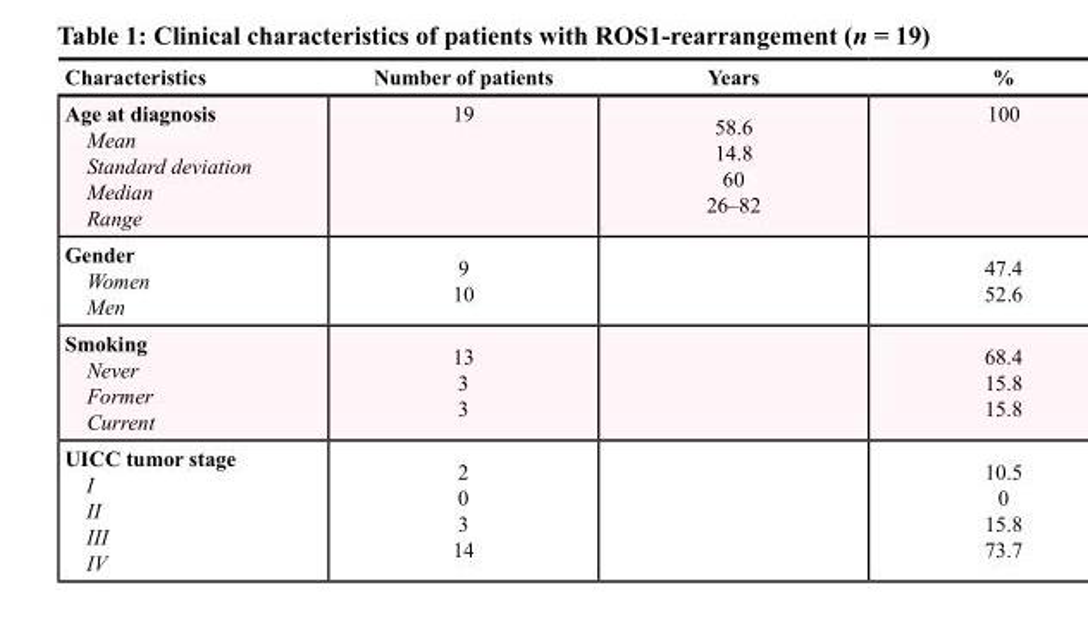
<table><thead><tr><td>Characteristics</td><td>Number of patients</td><td>Years</td><td>%</td></tr></thead><tbody><tr><td>Age at diagnosis Mean Standard deviation Median Range</td><td>19</td><td>58.6 14.8 60 26–82</td><td>100</td></tr><tr><td>Gender Women Men</td><td>9 10</td><td></td><td>47.4 52.6</td></tr><tr><td>Smoking Never Former Current</td><td>13 3 3</td><td></td><td>68.4 15.8 15.8</td></tr><tr><td>UICC tumor stage I II III IV</td><td>2 0 3 14</td><td></td><td>10.5 0 15.8 73.7</td></tr></tbody></table>